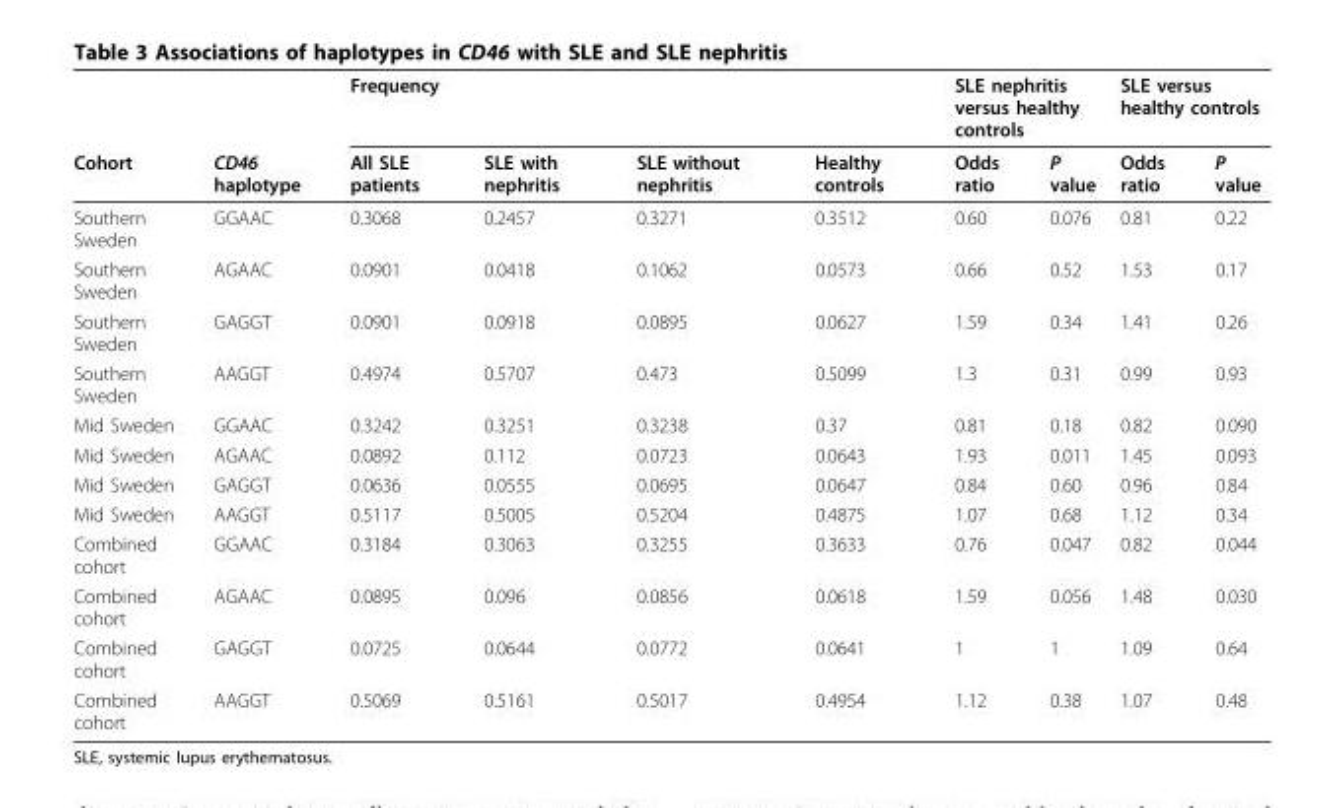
<table><thead><tr><td rowspan="2">Cohort</td><td rowspan="2">CD46 haplotype</td><td colspan="4">Frequency</td><td colspan="2">SLE nephritis versus healthy controls</td><td colspan="2">SLE versus healthy controls</td></tr><tr><td>All SLE patients</td><td>SLE with nephritis</td><td>SLE without nephritis</td><td>Healthy controls</td><td>Odds ratio</td><td>P value</td><td>Odds ratio</td><td>P value</td></tr></thead><tbody><tr><td>Southern Sweden</td><td>GGAAC</td><td>0.3068</td><td>0.2457</td><td>0.3271</td><td>0.3512</td><td>0.60</td><td>0.076</td><td>0.81</td><td>0.22</td></tr><tr><td>Southern Sweden</td><td>AGAAC</td><td>0.0901</td><td>0.0418</td><td>0.1062</td><td>0.0573</td><td>0.66</td><td>0.52</td><td>1.53</td><td>0.17</td></tr><tr><td>Southern Sweden</td><td>GAGGT</td><td>0.0901</td><td>0.0918</td><td>0.0895</td><td>0.0627</td><td>1.59</td><td>0.34</td><td>1.41</td><td>0.26</td></tr><tr><td>Southern Sweden</td><td>AAGGT</td><td>0.4974</td><td>0.5707</td><td>0.473</td><td>0.5099</td><td>1.3</td><td>0.31</td><td>0.99</td><td>0.93</td></tr><tr><td>Mid Sweden</td><td>GGAAC</td><td>0.3242</td><td>0.3251</td><td>0.3238</td><td>0.37</td><td>0.81</td><td>0.18</td><td>0.82</td><td>0.090</td></tr><tr><td>Mid Sweden</td><td>AGAAC</td><td>0.0892</td><td>0.112</td><td>0.0723</td><td>0.0643</td><td>1.93</td><td>0.011</td><td>1.45</td><td>0.093</td></tr><tr><td>Mid Sweden</td><td>GAGGT</td><td>0.0636</td><td>0.0555</td><td>0.0695</td><td>0.0647</td><td>0.84</td><td>0.60</td><td>0.96</td><td>0.84</td></tr><tr><td>Mid Sweden</td><td>AAGGT</td><td>0.5117</td><td>0.5005</td><td>0.5204</td><td>0.4875</td><td>1.07</td><td>0.68</td><td>1.12</td><td>0.34</td></tr><tr><td>Combined cohort</td><td>GGAAC</td><td>0.3184</td><td>0.3063</td><td>0.3255</td><td>0.3633</td><td>0.76</td><td>0.047</td><td>0.82</td><td>0.044</td></tr><tr><td>Combined cohort</td><td>AGAAC</td><td>0.0895</td><td>0.096</td><td>0.0856</td><td>0.0618</td><td>1.59</td><td>0.056</td><td>1.48</td><td>0.030</td></tr><tr><td>Combined cohort</td><td>GAGGT</td><td>0.0725</td><td>0.0644</td><td>0.0772</td><td>0.0641</td><td>1</td><td>1</td><td>1.09</td><td>0.64</td></tr><tr><td>Combined cohort</td><td>AAGGT</td><td>0.5069</td><td>0.5161</td><td>0.5017</td><td>0.4954</td><td>1.12</td><td>0.38</td><td>1.07</td><td>0.48</td></tr></tbody></table>